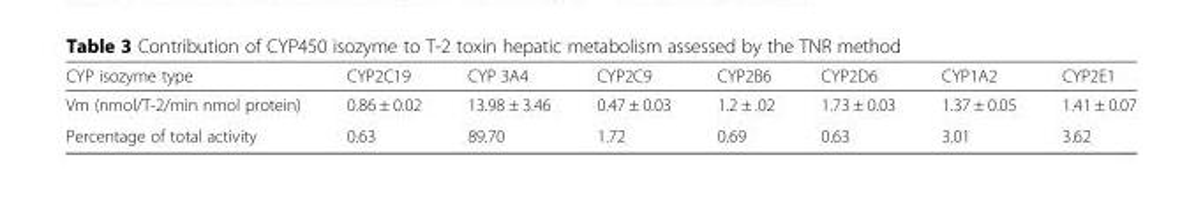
<table><thead><tr><td>CYP isozyme type</td><td>CYP2C19</td><td>CYP 3A4</td><td>CYP2C9</td><td>CYP2B6</td><td>CYP2D6</td><td>CYP1A2</td><td>CYP2E1</td></tr></thead><tbody><tr><td>Vm (nmol/T-2/min nmol protein)</td><td>0.86 ± 0.02</td><td>13.98 ± 3.46</td><td>0.47 ± 0.03</td><td>1.2 ± .02</td><td>1.73 ± 0.03</td><td>1.37 ± 0.05</td><td>1.41 ± 0.07</td></tr><tr><td>Percentage of total activity</td><td>0.63</td><td>89.70</td><td>1.72</td><td>0.69</td><td>0.63</td><td>3.01</td><td>3.62</td></tr></tbody></table>